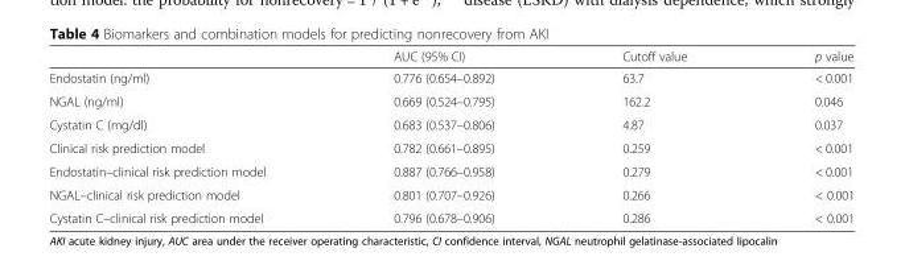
<table><thead><tr><td></td><td>AUC (95% CI)</td><td>Cutoff value</td><td>p value</td></tr></thead><tbody><tr><td>Endostatin (ng/ml)</td><td>0.776 (0.654–0.892)</td><td>63.7</td><td>&lt; 0.001</td></tr><tr><td>NGAL (ng/ml)</td><td>0.669 (0.524–0.795)</td><td>162.2</td><td>0.046</td></tr><tr><td>Cystatin C (mg/dl)</td><td>0.683 (0.537–0.806)</td><td>4.87</td><td>0.037</td></tr><tr><td>Clinical risk prediction model</td><td>0.782 (0.661–0.895)</td><td>0.259</td><td>&lt; 0.001</td></tr><tr><td>Endostatin–clinical risk prediction model</td><td>0.887 (0.766–0.958)</td><td>0.279</td><td>&lt; 0.001</td></tr><tr><td>NGAL–clinical risk prediction model</td><td>0.801 (0.707–0.926)</td><td>0.266</td><td>&lt; 0.001</td></tr><tr><td>Cystatin C–clinical risk prediction model</td><td>0.796 (0.678–0.906)</td><td>0.286</td><td>&lt; 0.001</td></tr></tbody></table>